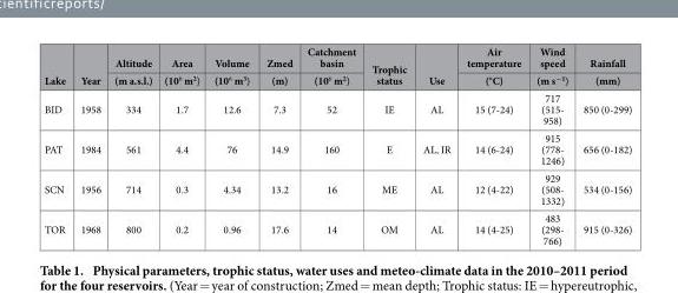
<table><thead><tr><td rowspan="2">Lake</td><td rowspan="2">Year</td><td rowspan="2">Altitude (m a.s.l.)</td><td rowspan="2">Area (10<sup>6</sup> m<sup>2</sup>)</td><td rowspan="2">Volume (10<sup>6</sup> m<sup>3</sup>)</td><td rowspan="2">Zmed (m)</td><td rowspan="2">Catchment basin (10<sup>6</sup> m<sup>2</sup>)</td><td rowspan="2">Trophic status</td><td rowspan="2">Use</td><td rowspan="2">Air temperature (°C)</td><td rowspan="2">Wind speed (m s<sup>−1</sup>)</td><td rowspan="2">Rainfall (mm)</td></tr><tr></tr></thead><tbody><tr><td>BID</td><td>1958</td><td>334</td><td>1.7</td><td>12.6</td><td>7.3</td><td>52</td><td>IE</td><td>AL</td><td>15 (7-24)</td><td>717 (515- 958)</td><td>850 (0-299)</td></tr><tr><td>PAT</td><td>1984</td><td>561</td><td>4.4</td><td>76</td><td>14.9</td><td>160</td><td>E</td><td>AL, IR</td><td>14 (6-24)</td><td>915 (778- 1246)</td><td>656 (0-182)</td></tr><tr><td>SCN</td><td>1956</td><td>714</td><td>0.3</td><td>4.34</td><td>13.2</td><td>16</td><td>ME</td><td>AL</td><td>12 (4-22)</td><td>929 (508- 1332)</td><td>534 (0-156)</td></tr><tr><td>TOR</td><td>1968</td><td>800</td><td>0.2</td><td>0.96</td><td>17.6</td><td>14</td><td>OM</td><td>AL</td><td>14 (4-25)</td><td>483 (298- 766)</td><td>915 (0-326)</td></tr></tbody></table>